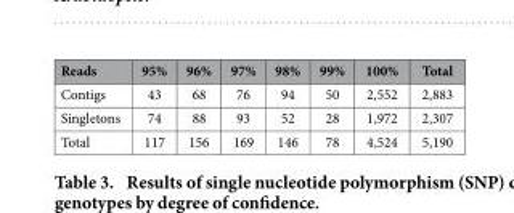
<table><thead><tr><td>Reads</td><td>95%</td><td>96%</td><td>97%</td><td>98%</td><td>99%</td><td>100%</td><td>Total</td></tr></thead><tbody><tr><td>Contigs</td><td>43</td><td>68</td><td>76</td><td>94</td><td>50</td><td>2,552</td><td>2,883</td></tr><tr><td>Singletons</td><td>74</td><td>88</td><td>93</td><td>52</td><td>28</td><td>1,972</td><td>2,307</td></tr><tr><td>Total</td><td>117</td><td>156</td><td>169</td><td>146</td><td>78</td><td>4,524</td><td>5,190</td></tr></tbody></table>